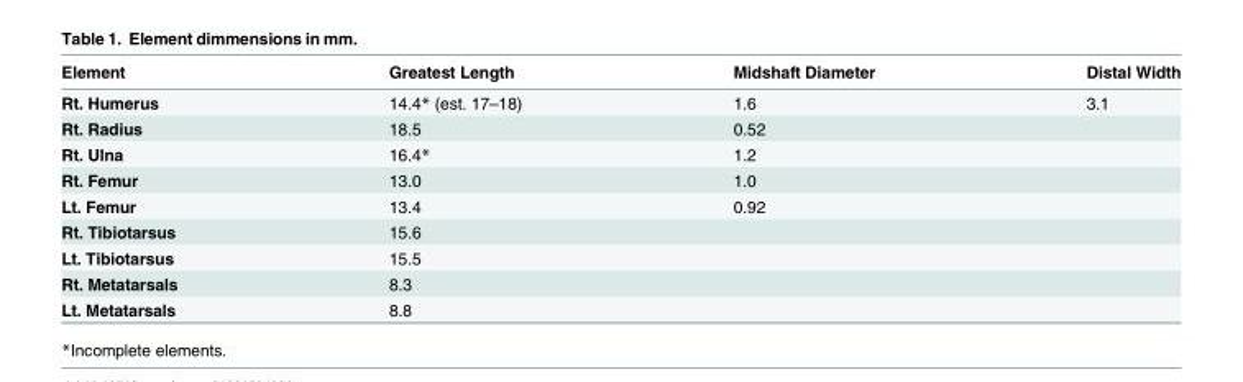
<table><thead><tr><td>Element</td><td>Greatest Length</td><td>Midshaft Diameter</td><td>Distal Width</td></tr></thead><tbody><tr><td>Rt. Humerus</td><td>14.4* (est. 17–18)</td><td>1.6</td><td>3.1</td></tr><tr><td>Rt. Radius</td><td>18.5</td><td>0.52</td><td></td></tr><tr><td>Rt. Ulna</td><td>16.4*</td><td>1.2</td><td></td></tr><tr><td>Rt. Femur</td><td>13.0</td><td>1.0</td><td></td></tr><tr><td>Lt. Femur</td><td>13.4</td><td>0.92</td><td></td></tr><tr><td>Rt. Tibiotarsus</td><td>15.6</td><td></td><td></td></tr><tr><td>Lt. Tibiotarsus</td><td>15.5</td><td></td><td></td></tr><tr><td>Rt. Metatarsals</td><td>8.3</td><td></td><td></td></tr><tr><td>Lt. Metatarsals</td><td>8.8</td><td></td><td></td></tr></tbody></table>